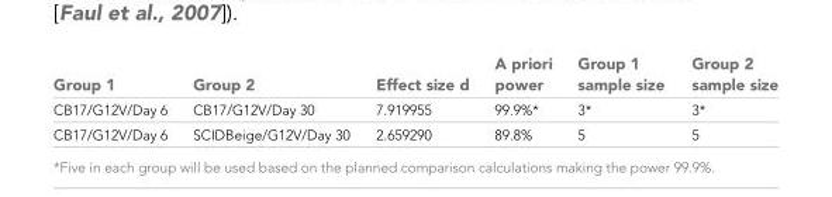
<table><thead><tr><td>Group 1</td><td>Group 2</td><td>Effect size d</td><td>A priori power</td><td>Group 1 sample size</td><td>Group 2 sample size</td></tr></thead><tbody><tr><td>CB17/G12V/Day 6</td><td>CB17/G12V/Day 30</td><td>7.919955</td><td>99.9%*</td><td>3*</td><td>3*</td></tr><tr><td>CB17/G12V/Day 6</td><td>SCIDBeige/G12V/Day 30</td><td>2.659290</td><td>89.8%</td><td>5</td><td>5</td></tr></tbody></table>